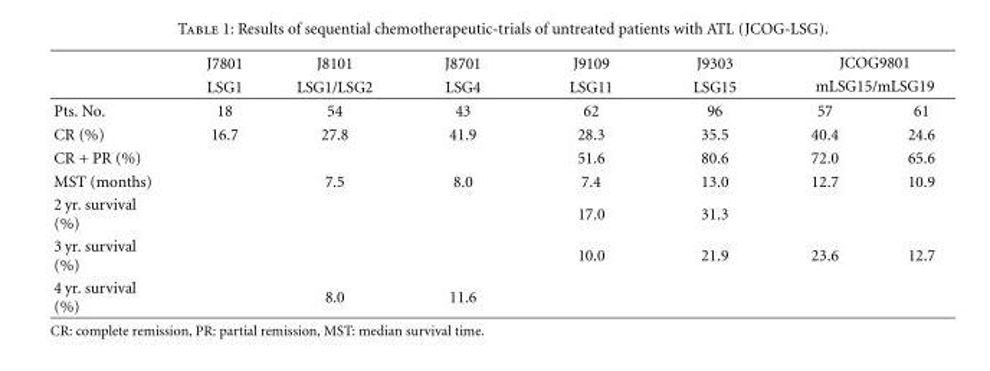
<table><thead><tr><td rowspan="3">Pts. No.</td><td rowspan="3">J7801 LSG1 18</td><td rowspan="3">J8101 LSG1/LSG2 54</td><td rowspan="3">J8701 LSG4 43</td><td rowspan="3">J9109 LSG11 62</td><td rowspan="3">J9303 LSG15 96</td><td rowspan="2" colspan="2">JCOG9801 mLSG15/mLSG19</td></tr><tr></tr><tr><td>57</td><td>61</td></tr></thead><tbody><tr><td>CR (%)</td><td>16.7</td><td>27.8</td><td>41.9</td><td>28.3</td><td>35.5</td><td>40.4</td><td>24.6</td></tr><tr><td>CR + PR (%)</td><td></td><td></td><td></td><td>51.6</td><td>80.6</td><td>72.0</td><td>65.6</td></tr><tr><td>MST (months)</td><td></td><td>7.5</td><td>8.0</td><td>7.4</td><td>13.0</td><td>12.7</td><td>10.9</td></tr><tr><td>2 yr. survival (%)</td><td></td><td></td><td></td><td>17.0</td><td>31.3</td><td></td><td></td></tr><tr><td>3 yr. survival (%)</td><td></td><td></td><td></td><td>10.0</td><td>21.9</td><td>23.6</td><td>12.7</td></tr><tr><td>4 yr. survival (%)</td><td></td><td>8.0</td><td>11.6</td><td></td><td></td><td></td><td></td></tr></tbody></table>